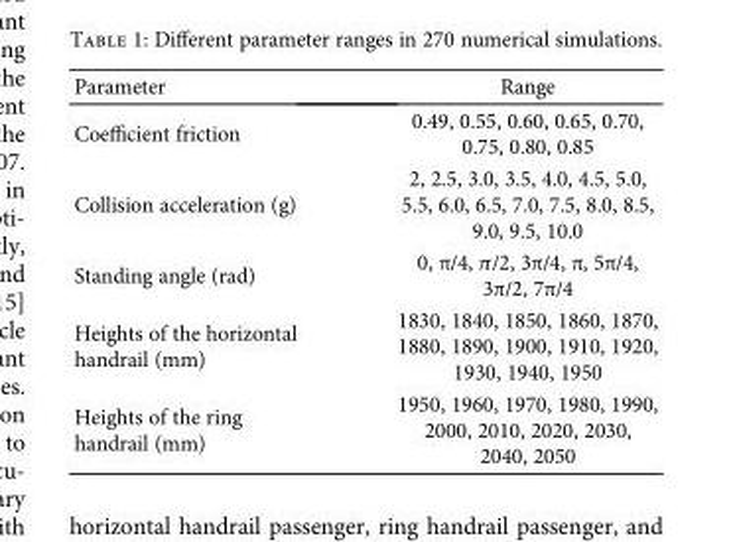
<table><thead><tr><td>Parameter</td><td>Range</td></tr></thead><tbody><tr><td>Coefficient friction</td><td>0.49, 0.55, 0.60, 0.65, 0.70, 0.75, 0.80, 0.85</td></tr><tr><td>Collision acceleration (g)</td><td>2, 2.5, 3.0, 3.5, 4.0, 4.5, 5.0, 5.5, 6.0, 6.5, 7.0, 7.5, 8.0, 8.5, 9.0, 9.5, 10.0</td></tr><tr><td>Standing angle (rad)</td><td>0, π/4, π/2, 3π/4, π, 5π/4, 3π/2, 7π/4</td></tr><tr><td>Heights of the horizontal handrail (mm)</td><td>1830, 1840, 1850, 1860, 1870, 1880, 1890, 1900, 1910, 1920, 1930, 1940, 1950</td></tr><tr><td>Heights of the ring handrail (mm)</td><td>1950, 1960, 1970, 1980, 1990, 2000, 2010, 2020, 2030, 2040, 2050</td></tr></tbody></table>